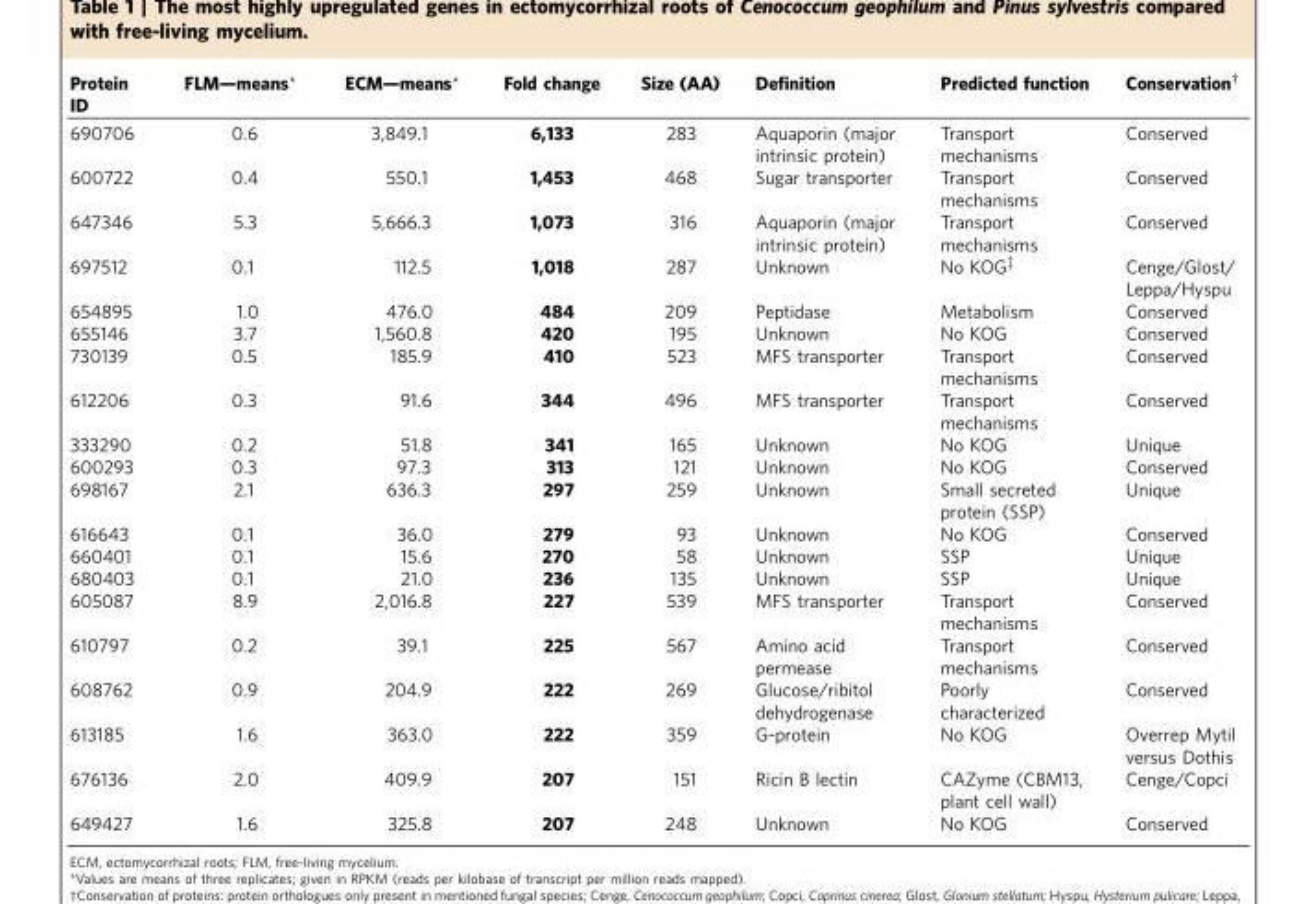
<table><thead><tr><td>Protein ID</td><td>FLM—means*</td><td>ECM—means*</td><td>Fold change</td><td>Size (AA)</td><td>Definition</td><td>Predicted function</td><td>Conservation†</td></tr></thead><tbody><tr><td>690706</td><td>0.6</td><td>3,849.1</td><td>6,133</td><td>283</td><td>Aquaporin (major intrinsic protein)</td><td>Transport mechanisms</td><td>Conserved</td></tr><tr><td>600722</td><td>0.4</td><td>550.1</td><td>1,453</td><td>468</td><td>Sugar transporter</td><td>Transport mechanisms</td><td>Conserved</td></tr><tr><td>647346</td><td>5.3</td><td>5,666.3</td><td>1,073</td><td>316</td><td>Aquaporin (major intrinsic protein)</td><td>Transport mechanisms</td><td>Conserved</td></tr><tr><td>697512</td><td>0.1</td><td>112.5</td><td>1,018</td><td>287</td><td>Unknown</td><td>No KOG‡</td><td>Cenge/Glost/ Leppa/Hyspu</td></tr><tr><td>654895</td><td>1.0</td><td>476.0</td><td>484</td><td>209</td><td>Peptidase</td><td>Metabolism</td><td>Conserved</td></tr><tr><td>655146</td><td>3.7</td><td>1,560.8</td><td>420</td><td>195</td><td>Unknown</td><td>No KOG</td><td>Conserved</td></tr><tr><td>730139</td><td>0.5</td><td>185.9</td><td>410</td><td>523</td><td>MFS transporter</td><td>Transport mechanisms</td><td>Conserved</td></tr><tr><td>612206</td><td>0.3</td><td>91.6</td><td>344</td><td>496</td><td>MFS transporter</td><td>Transport mechanisms</td><td>Conserved</td></tr><tr><td>333290</td><td>0.2</td><td>51.8</td><td>341</td><td>165</td><td>Unknown</td><td>No KOG</td><td>Unique</td></tr><tr><td>600293</td><td>0.3</td><td>97.3</td><td>313</td><td>121</td><td>Unknown</td><td>No KOG</td><td>Conserved</td></tr><tr><td>698167</td><td>2.1</td><td>636.3</td><td>297</td><td>259</td><td>Unknown</td><td>Small secreted protein (SSP)</td><td>Unique</td></tr><tr><td>616643</td><td>0.1</td><td>36.0</td><td>279</td><td>93</td><td>Unknown</td><td>No KOG</td><td>Conserved</td></tr><tr><td>660401</td><td>0.1</td><td>15.6</td><td>270</td><td>58</td><td>Unknown</td><td>SSP</td><td>Unique</td></tr><tr><td>680403</td><td>0.1</td><td>21.0</td><td>236</td><td>135</td><td>Unknown</td><td>SSP</td><td>Unique</td></tr><tr><td>605087</td><td>8.9</td><td>2,016.8</td><td>227</td><td>539</td><td>MFS transporter</td><td>Transport mechanisms</td><td>Conserved</td></tr><tr><td>610797</td><td>0.2</td><td>39.1</td><td>225</td><td>567</td><td>Amino acid permease</td><td>Transport mechanisms</td><td>Conserved</td></tr><tr><td>608762</td><td>0.9</td><td>204.9</td><td>222</td><td>269</td><td>Glucose/ribitol dehydrogenase</td><td>Poorly characterized</td><td>Conserved</td></tr><tr><td>613185</td><td>1.6</td><td>363.0</td><td>222</td><td>359</td><td>G-protein</td><td>No KOG</td><td>Overrep Mytil versus Dothis</td></tr><tr><td>676136</td><td>2.0</td><td>409.9</td><td>207</td><td>151</td><td>Ricin B lectin</td><td>CAZyme (CBM13, plant cell wall)</td><td>Cenge/Copci</td></tr><tr><td>649427</td><td>1.6</td><td>325.8</td><td>207</td><td>248</td><td>Unknown</td><td>No KOG</td><td>Conserved</td></tr></tbody></table>